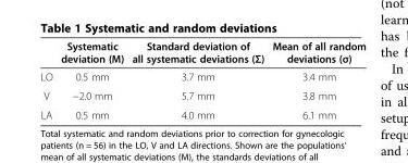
<table><thead><tr><td></td><td>Systematic deviation (M)</td><td>Standard deviation of all systematic deviations (Σ)</td><td>Mean of all random deviations (σ)</td></tr></thead><tbody><tr><td>LO</td><td>0.5 mm</td><td>3.7 mm</td><td>3.4 mm</td></tr><tr><td>V</td><td>−2.0 mm</td><td>5.7 mm</td><td>3.8 mm</td></tr><tr><td>LA</td><td>0.5 mm</td><td>4.0 mm</td><td>6.1 mm</td></tr></tbody></table>